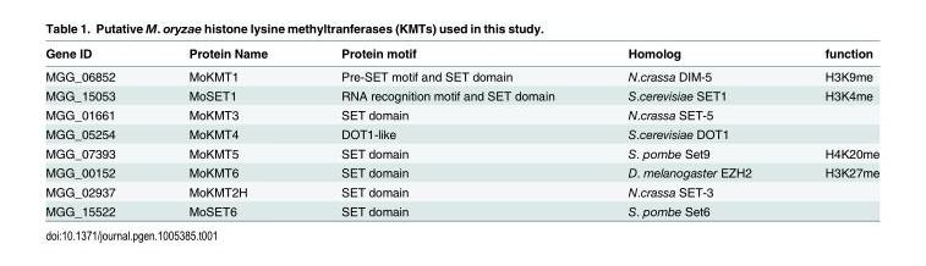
<table><thead><tr><td>Gene ID</td><td>Protein Name</td><td>Protein motif</td><td>Homolog</td><td>function</td></tr></thead><tbody><tr><td>MGG_06852</td><td>MoKMT1</td><td>Pre-SET motif and SET domain</td><td>N.crassa DIM-5</td><td>H3K9me</td></tr><tr><td>MGG_15053</td><td>MoSET1</td><td>RNA recognition motif and SET domain</td><td>S.cerevisiae SET1</td><td>H3K4me</td></tr><tr><td>MGG_01661</td><td>MoKMT3</td><td>SET domain</td><td>N.crassa SET-5</td><td></td></tr><tr><td>MGG_05254</td><td>MoKMT4</td><td>DOT1-like</td><td>S.cerevisiae DOT1</td><td></td></tr><tr><td>MGG_07393</td><td>MoKMT5</td><td>SET domain</td><td>S. pombe Set9</td><td>H4K20me</td></tr><tr><td>MGG_00152</td><td>MoKMT6</td><td>SET domain</td><td>D. melanogaster EZH2</td><td>H3K27me</td></tr><tr><td>MGG_02937</td><td>MoKMT2H</td><td>SET domain</td><td>N.crassa SET-3</td><td></td></tr><tr><td>MGG_15522</td><td>MoSET6</td><td>SET domain</td><td>S. pombe Set6</td><td></td></tr></tbody></table>